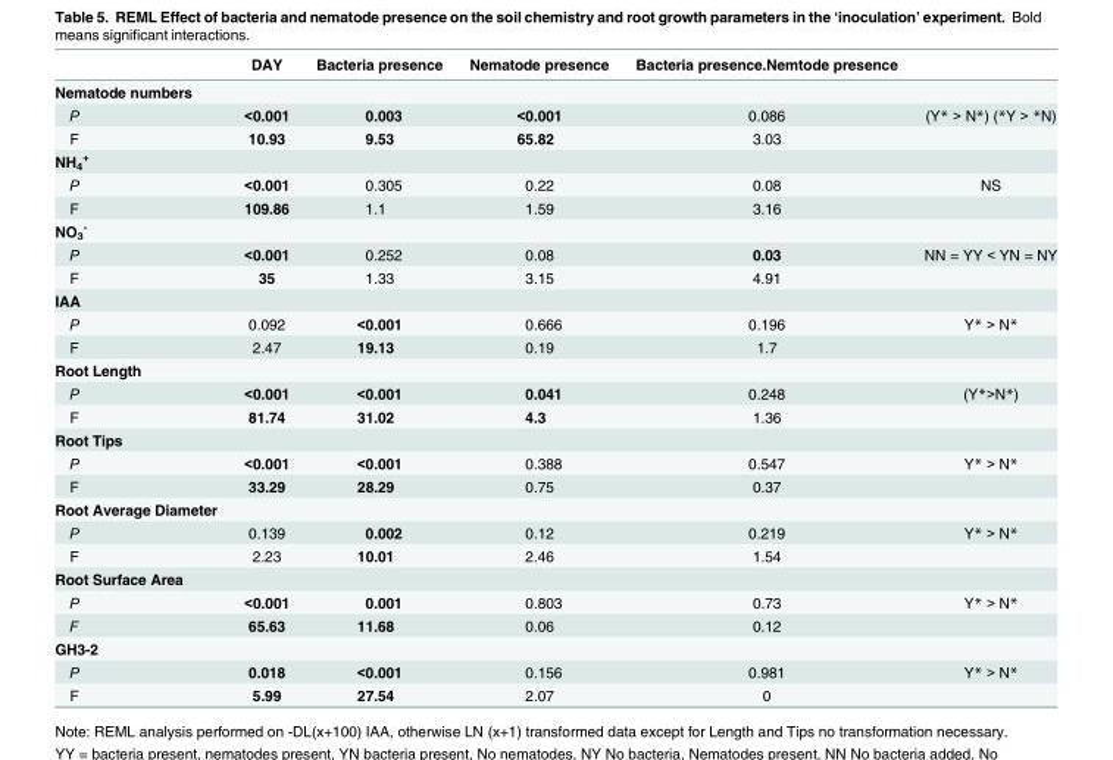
<table><thead><tr><td></td><td>DAY</td><td>Bacteria presence</td><td>Nematode presence</td><td>Bacteria presence.Nemtode presence</td><td></td></tr></thead><tbody><tr><td colspan="6">Nematode numbers</td></tr><tr><td>P</td><td>&lt;0.001</td><td>0.003</td><td>&lt;0.001</td><td>0.086</td><td>(Y* &gt; N*) (*Y &gt; *N)</td></tr><tr><td>F</td><td>10.93</td><td>9.53</td><td>65.82</td><td>3.03</td><td></td></tr><tr><td colspan="6">NH<sub>4</sub> <sup>+</sup></td></tr><tr><td>P</td><td>&lt;0.001</td><td>0.305</td><td>0.22</td><td>0.08</td><td>NS</td></tr><tr><td>F</td><td>109.86</td><td>1.1</td><td>1.59</td><td>3.16</td><td></td></tr><tr><td colspan="6">NO<sub>3</sub> <sup>-</sup></td></tr><tr><td>P</td><td>&lt;0.001</td><td>0.252</td><td>0.08</td><td>0.03</td><td>NN = YY &lt; YN = NY</td></tr><tr><td>F</td><td>35</td><td>1.33</td><td>3.15</td><td>4.91</td><td></td></tr><tr><td colspan="6">IAA</td></tr><tr><td>P</td><td>0.092</td><td>&lt;0.001</td><td>0.666</td><td>0.196</td><td>Y* &gt; N*</td></tr><tr><td>F</td><td>2.47</td><td>19.13</td><td>0.19</td><td>1.7</td><td></td></tr><tr><td colspan="6">Root Length</td></tr><tr><td>P</td><td>&lt;0.001</td><td>&lt;0.001</td><td>0.041</td><td>0.248</td><td>(Y*&gt;N*)</td></tr><tr><td>F</td><td>81.74</td><td>31.02</td><td>4.3</td><td>1.36</td><td></td></tr><tr><td colspan="6">Root Tips</td></tr><tr><td>P</td><td>&lt;0.001</td><td>&lt;0.001</td><td>0.388</td><td>0.547</td><td>Y* &gt; N*</td></tr><tr><td>F</td><td>33.29</td><td>28.29</td><td>0.75</td><td>0.37</td><td></td></tr><tr><td colspan="6">Root Average Diameter</td></tr><tr><td>P</td><td>0.139</td><td>0.002</td><td>0.12</td><td>0.219</td><td>Y* &gt; N*</td></tr><tr><td>F</td><td>2.23</td><td>10.01</td><td>2.46</td><td>1.54</td><td></td></tr><tr><td colspan="6">Root Surface Area</td></tr><tr><td>P</td><td>&lt;0.001</td><td>0.001</td><td>0.803</td><td>0.73</td><td>Y* &gt; N*</td></tr><tr><td>F</td><td>65.63</td><td>11.68</td><td>0.06</td><td>0.12</td><td></td></tr><tr><td colspan="6">GH3-2</td></tr><tr><td>P</td><td>0.018</td><td>&lt;0.001</td><td>0.156</td><td>0.981</td><td>Y* &gt; N*</td></tr><tr><td>F</td><td>5.99</td><td>27.54</td><td>2.07</td><td>0</td><td></td></tr></tbody></table>